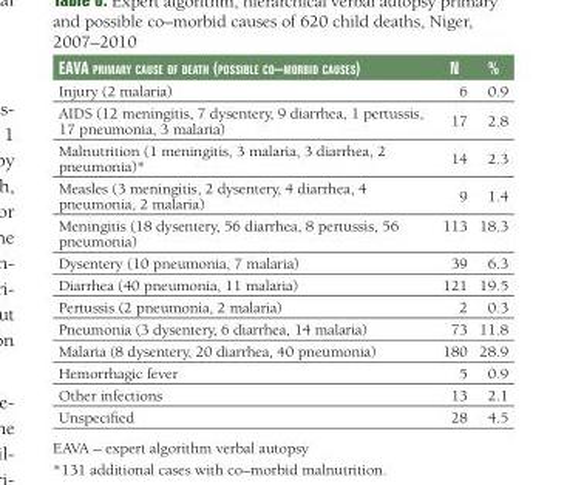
<table><thead><tr><td>eAVA primAry cAuSe of deAth (poSSible co–morbid cAuSeS)</td><td>N</td><td>%</td></tr></thead><tbody><tr><td>Injury (2 malaria)</td><td>6</td><td>0.9</td></tr><tr><td>AIDS (12 meningitis, 7 dysentery, 9 diarrhea, 1 pertussis, 17 pneumonia, 3 malaria)</td><td>17</td><td>2.8</td></tr><tr><td>Malnutrition (1 meningitis, 3 malaria, 3 diarrhea, 2 pneumonia)*</td><td>14</td><td>2.3</td></tr><tr><td>Measles (3 meningitis, 2 dysentery, 4 diarrhea, 4 pneumonia, 2 malaria)</td><td>9</td><td>1.4</td></tr><tr><td>Meningitis (18 dysentery, 56 diarrhea, 8 pertussis, 56 pneumonia)</td><td>113</td><td>18.3</td></tr><tr><td>Dysentery (10 pneumonia, 7 malaria)</td><td>39</td><td>6.3</td></tr><tr><td>Diarrhea (40 pneumonia, 11 malaria)</td><td>121</td><td>19.5</td></tr><tr><td>Pertussis (2 pneumonia, 2 malaria)</td><td>2</td><td>0.3</td></tr><tr><td>Pneumonia (3 dysentery, 6 diarrhea, 14 malaria)</td><td>73</td><td>11.8</td></tr><tr><td>Malaria (8 dysentery, 20 diarrhea, 40 pneumonia)</td><td>180</td><td>28.9</td></tr><tr><td>Hemorrhagic fever</td><td>5</td><td>0.9</td></tr><tr><td>Other infections</td><td>13</td><td>2.1</td></tr><tr><td>Unspecified</td><td>28</td><td>4.5</td></tr></tbody></table>